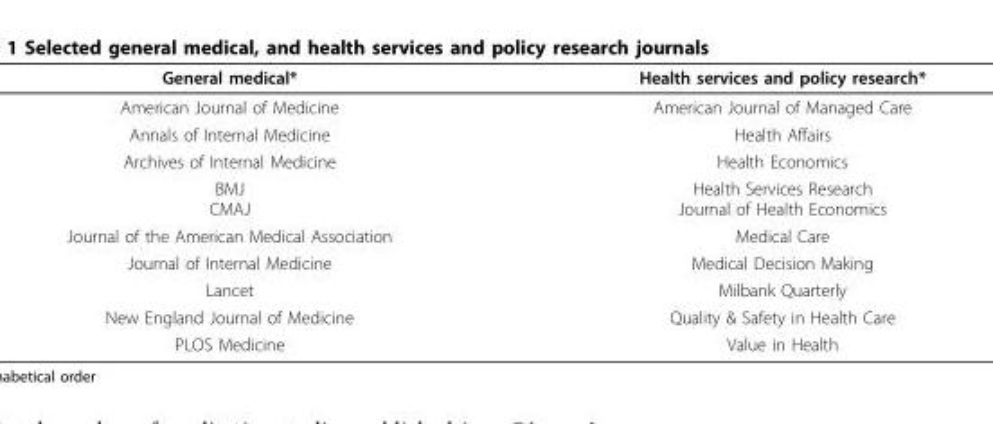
<table><thead><tr><td>General medical*</td><td>Health services and policy research*</td></tr></thead><tbody><tr><td>American Journal of Medicine</td><td>American Journal of Managed Care</td></tr><tr><td>Annals of Internal Medicine</td><td>Health Affairs</td></tr><tr><td>Archives of Internal Medicine</td><td>Health Economics</td></tr><tr><td>BMJ CMAJ</td><td>Health Services Research Journal of Health Economics</td></tr><tr><td>Journal of the American Medical Association</td><td>Medical Care</td></tr><tr><td>Journal of Internal Medicine</td><td>Medical Decision Making</td></tr><tr><td>Lancet</td><td>Milbank Quarterly</td></tr><tr><td>New England Journal of Medicine</td><td>Quality &amp; Safety in Health Care</td></tr><tr><td>PLOS Medicine</td><td>Value in Health</td></tr></tbody></table>